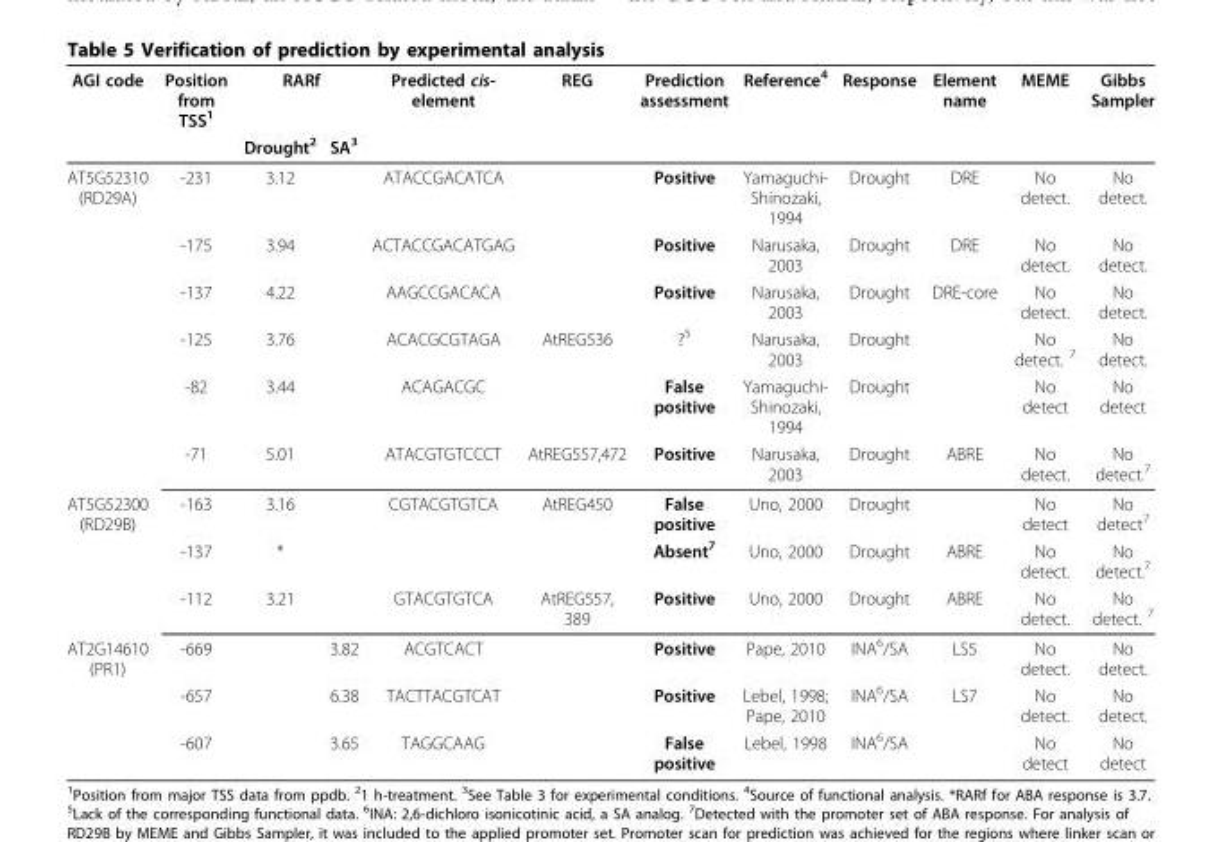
<table><thead><tr><td rowspan="2">AGI code</td><td rowspan="2">Position from TSS<sup>1</sup></td><td colspan="2">RARf</td><td rowspan="2">Predicted cis- element</td><td rowspan="2">REG</td><td rowspan="2">Prediction assessment</td><td rowspan="2">Reference<sup>4</sup></td><td rowspan="2">Response</td><td rowspan="2">Element name</td><td rowspan="2">MEME</td><td rowspan="2">Gibbs Sampler</td></tr><tr><td>Drought<sup>2</sup></td><td>SA<sup>3</sup></td></tr></thead><tbody><tr><td rowspan="6">AT5G52310 (RD29A)</td><td>-231</td><td>3.12</td><td></td><td>ATACCGACATCA</td><td></td><td>Positive</td><td>Yamaguchi- Shinozaki, 1994</td><td>Drought</td><td>DRE</td><td>No detect.</td><td>No detect.</td></tr><tr><td>-175</td><td>3.94</td><td></td><td>ACTACCGACATGAG</td><td></td><td>Positive</td><td>Narusaka, 2003</td><td>Drought</td><td>DRE</td><td>No detect.</td><td>No detect.</td></tr><tr><td>-137</td><td>4.22</td><td></td><td>AAGCCGACACA</td><td></td><td>Positive</td><td>Narusaka, 2003</td><td>Drought</td><td>DRE-core</td><td>No detect.</td><td>No detect.</td></tr><tr><td>-125</td><td>3.76</td><td></td><td>ACACGCGTAGA</td><td>AtREG536</td><td>?<sup>5</sup></td><td>Narusaka, 2003</td><td>Drought</td><td></td><td>No detect. <sup>7</sup></td><td>No detect.</td></tr><tr><td>-82</td><td>3.44</td><td></td><td>ACAGACGC</td><td></td><td>False positive</td><td>Yamaguchi- Shinozaki, 1994</td><td>Drought</td><td></td><td>No detect</td><td>No detect</td></tr><tr><td>-71</td><td>5.01</td><td></td><td>ATACGTGTCCCT</td><td>AtREG557,472</td><td>Positive</td><td>Narusaka, 2003</td><td>Drought</td><td>ABRE</td><td>No detect.</td><td>No detect.<sup>7</sup></td></tr><tr><td rowspan="3">AT5G52300 (RD29B)</td><td>-163</td><td>3.16</td><td></td><td>CGTACGTGTCA</td><td>AtREG450</td><td>False positive</td><td>Uno, 2000</td><td>Drought</td><td></td><td>No detect</td><td>No detect<sup>7</sup></td></tr><tr><td>-137</td><td>*</td><td></td><td></td><td></td><td>Absent<sup>7</sup></td><td>Uno, 2000</td><td>Drought</td><td>ABRE</td><td>No detect.</td><td>No detect.<sup>7</sup></td></tr><tr><td>-112</td><td>3.21</td><td></td><td>GTACGTGTCA</td><td>AtREG557, 389</td><td>Positive</td><td>Uno, 2000</td><td>Drought</td><td>ABRE</td><td>No detect.</td><td>No detect. <sup>7</sup></td></tr><tr><td rowspan="3">AT2G14610 (PR1)</td><td>-669</td><td></td><td>3.82</td><td>ACGTCACT</td><td></td><td>Positive</td><td>Pape, 2010</td><td>INA<sup>6</sup>/SA</td><td>LS5</td><td>No detect.</td><td>No detect.</td></tr><tr><td>-657</td><td></td><td>6.38</td><td>TACTTACGTCAT</td><td></td><td>Positive</td><td>Lebel, 1998; Pape, 2010</td><td>INA<sup>6</sup>/SA</td><td>LS7</td><td>No detect.</td><td>No detect.</td></tr><tr><td>-607</td><td></td><td>3.65</td><td>TAGGCAAG</td><td></td><td>False positive</td><td>Lebel, 1998</td><td>INA<sup>6</sup>/SA</td><td></td><td>No detect</td><td>No detect</td></tr></tbody></table>